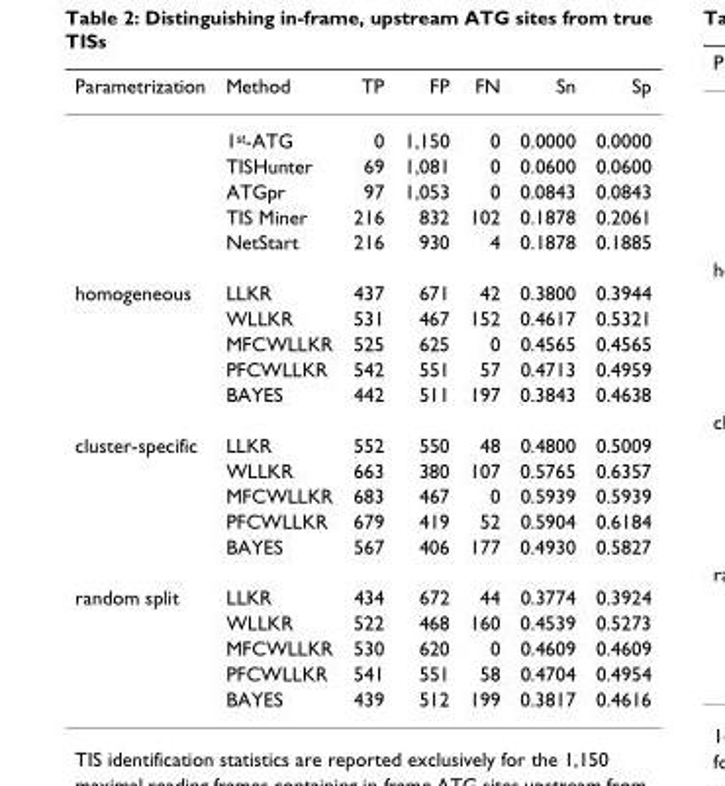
<table><thead><tr><td>Parametrization</td><td>Method</td><td>TP</td><td>FP</td><td>FN</td><td>Sn</td><td>Sp</td></tr></thead><tbody><tr><td></td><td>1<sup>st</sup>-ATG</td><td>0</td><td>1,150</td><td>0</td><td>0.0000</td><td>0.0000</td></tr><tr><td></td><td>TISHunter</td><td>69</td><td>1,081</td><td>0</td><td>0.0600</td><td>0.0600</td></tr><tr><td></td><td>ATGpr</td><td>97</td><td>1,053</td><td>0</td><td>0.0843</td><td>0.0843</td></tr><tr><td></td><td>TIS Miner</td><td>216</td><td>832</td><td>102</td><td>0.1878</td><td>0.2061</td></tr><tr><td></td><td>NetStart</td><td>216</td><td>930</td><td>4</td><td>0.1878</td><td>0.1885</td></tr><tr><td rowspan="5">homogeneous</td><td>LLKR</td><td>437</td><td>671</td><td>42</td><td>0.3800</td><td>0.3944</td></tr><tr><td>WLLKR</td><td>531</td><td>467</td><td>152</td><td>0.4617</td><td>0.5321</td></tr><tr><td>MFCWLLKR</td><td>525</td><td>625</td><td>0</td><td>0.4565</td><td>0.4565</td></tr><tr><td>PFCWLLKR</td><td>542</td><td>551</td><td>57</td><td>0.4713</td><td>0.4959</td></tr><tr><td>BAYES</td><td>442</td><td>511</td><td>197</td><td>0.3843</td><td>0.4638</td></tr><tr><td rowspan="5">cluster-specific</td><td>LLKR</td><td>552</td><td>550</td><td>48</td><td>0.4800</td><td>0.5009</td></tr><tr><td>WLLKR</td><td>663</td><td>380</td><td>107</td><td>0.5765</td><td>0.6357</td></tr><tr><td>MFCWLLKR</td><td>683</td><td>467</td><td>0</td><td>0.5939</td><td>0.5939</td></tr><tr><td>PFCWLLKR</td><td>679</td><td>419</td><td>52</td><td>0.5904</td><td>0.6184</td></tr><tr><td>BAYES</td><td>567</td><td>406</td><td>177</td><td>0.4930</td><td>0.5827</td></tr><tr><td rowspan="5">random split</td><td>LLKR</td><td>434</td><td>672</td><td>44</td><td>0.3774</td><td>0.3924</td></tr><tr><td>WLLKR</td><td>522</td><td>468</td><td>160</td><td>0.4539</td><td>0.5273</td></tr><tr><td>MFCWLLKR</td><td>530</td><td>620</td><td>0</td><td>0.4609</td><td>0.4609</td></tr><tr><td>PFCWLLKR</td><td>541</td><td>551</td><td>58</td><td>0.4704</td><td>0.4954</td></tr><tr><td>BAYES</td><td>439</td><td>512</td><td>199</td><td>0.3817</td><td>0.4616</td></tr></tbody></table>